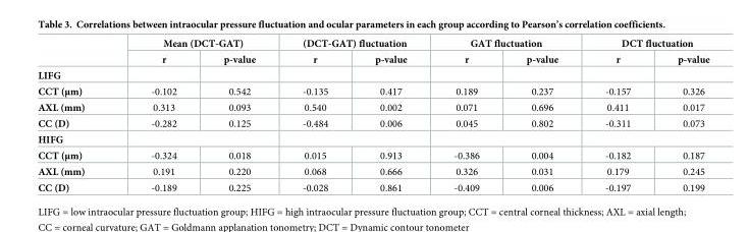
<table><thead><tr><td rowspan="2"></td><td colspan="2">Mean (DCT-GAT)</td><td colspan="2">(DCT-GAT) fluctuation</td><td colspan="2">GAT fluctuation</td><td colspan="2">DCT fluctuation</td></tr><tr><td>r</td><td>p-value</td><td>r</td><td>p-value</td><td>r</td><td>p-value</td><td>r</td><td>p-value</td></tr></thead><tbody><tr><td colspan="9">LIFG</td></tr><tr><td>CCT (μm)</td><td>-0.102</td><td>0.542</td><td>-0.135</td><td>0.417</td><td>0.189</td><td>0.237</td><td>-0.157</td><td>0.326</td></tr><tr><td>AXL (mm)</td><td>0.313</td><td>0.093</td><td>0.540</td><td>0.002</td><td>0.071</td><td>0.696</td><td>0.411</td><td>0.017</td></tr><tr><td>CC (D)</td><td>-0.282</td><td>0.125</td><td>-0.484</td><td>0.006</td><td>0.045</td><td>0.802</td><td>-0.311</td><td>0.073</td></tr><tr><td colspan="9">HIFG</td></tr><tr><td>CCT (μm)</td><td>-0.324</td><td>0.018</td><td>0.015</td><td>0.913</td><td>-0.386</td><td>0.004</td><td>-0.182</td><td>0.187</td></tr><tr><td>AXL (mm)</td><td>0.191</td><td>0.220</td><td>0.068</td><td>0.666</td><td>0.326</td><td>0.031</td><td>0.179</td><td>0.245</td></tr><tr><td>CC (D)</td><td>-0.189</td><td>0.225</td><td>-0.028</td><td>0.861</td><td>-0.409</td><td>0.006</td><td>-0.197</td><td>0.199</td></tr></tbody></table>